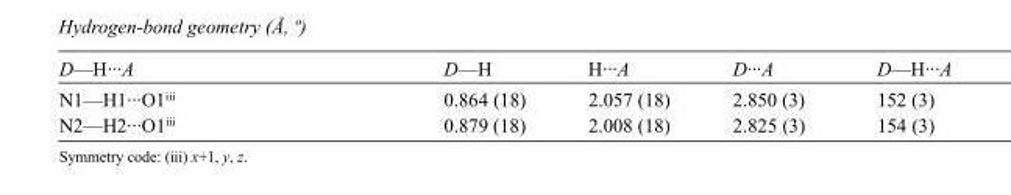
<table><tbody><tr><td>D—H···A</td><td>D—H</td><td>H···A</td><td>D···A</td><td>D—H···A</td></tr><tr><td>N1—H1···O1<sup>iii</sup></td><td>0.864 (18)</td><td>2.057 (18)</td><td>2.850 (3)</td><td>152 (3)</td></tr><tr><td>N2—H2···O1<sup>iii</sup></td><td>0.879 (18)</td><td>2.008 (18)</td><td>2.825 (3)</td><td>154 (3)</td></tr></tbody></table>